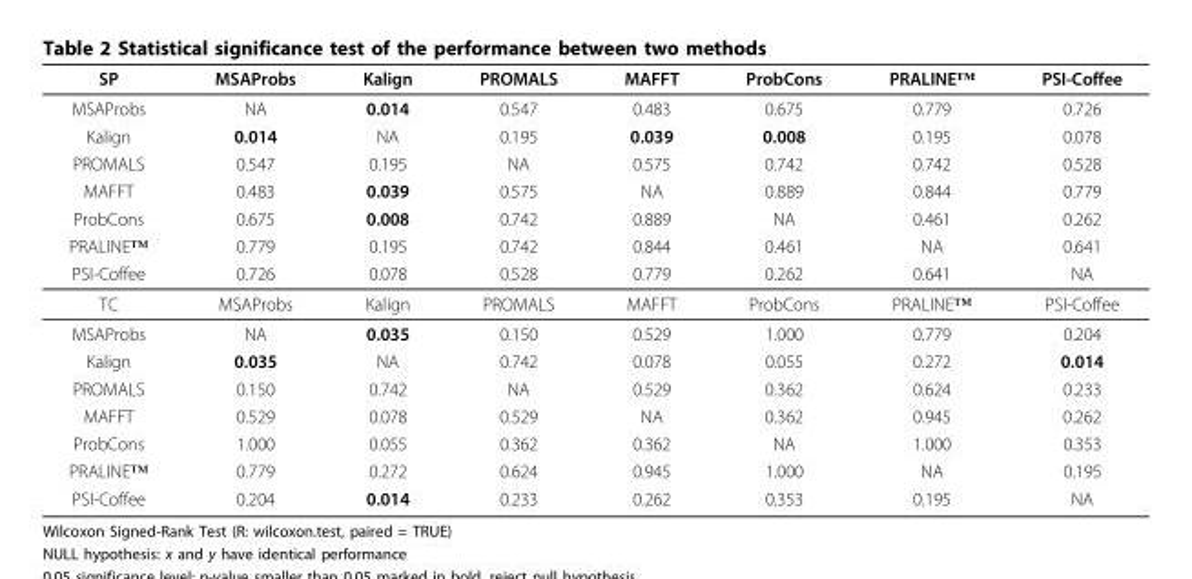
<table><thead><tr><td>SP</td><td>MSAProbs</td><td>Kalign</td><td>PROMALS</td><td>MAFFT</td><td>ProbCons</td><td>PRALINE™</td><td>PSI-Coffee</td></tr></thead><tbody><tr><td>MSAProbs</td><td>NA</td><td>0.014</td><td>0.547</td><td>0.483</td><td>0.675</td><td>0.779</td><td>0.726</td></tr><tr><td>Kalign</td><td>0.014</td><td>NA</td><td>0.195</td><td>0.039</td><td>0.008</td><td>0.195</td><td>0.078</td></tr><tr><td>PROMALS</td><td>0.547</td><td>0.195</td><td>NA</td><td>0.575</td><td>0.742</td><td>0.742</td><td>0.528</td></tr><tr><td>MAFFT</td><td>0.483</td><td>0.039</td><td>0.575</td><td>NA</td><td>0.889</td><td>0.844</td><td>0.779</td></tr><tr><td>ProbCons</td><td>0.675</td><td>0.008</td><td>0.742</td><td>0.889</td><td>NA</td><td>0.461</td><td>0.262</td></tr><tr><td>PRALINE™</td><td>0.779</td><td>0.195</td><td>0.742</td><td>0.844</td><td>0.461</td><td>NA</td><td>0.641</td></tr><tr><td>PSI-Coffee</td><td>0.726</td><td>0.078</td><td>0.528</td><td>0.779</td><td>0.262</td><td>0.641</td><td>NA</td></tr><tr><td>TC</td><td>MSAProbs</td><td>Kalign</td><td>PROMALS</td><td>MAFFT</td><td>ProbCons</td><td>PRALINE™</td><td>PSI-Coffee</td></tr><tr><td>MSAProbs</td><td>NA</td><td>0.035</td><td>0.150</td><td>0.529</td><td>1.000</td><td>0.779</td><td>0.204</td></tr><tr><td>Kalign</td><td>0.035</td><td>NA</td><td>0.742</td><td>0.078</td><td>0.055</td><td>0.272</td><td>0.014</td></tr><tr><td>PROMALS</td><td>0.150</td><td>0.742</td><td>NA</td><td>0.529</td><td>0.362</td><td>0.624</td><td>0.233</td></tr><tr><td>MAFFT</td><td>0.529</td><td>0.078</td><td>0.529</td><td>NA</td><td>0.362</td><td>0.945</td><td>0.262</td></tr><tr><td>ProbCons</td><td>1.000</td><td>0.055</td><td>0.362</td><td>0.362</td><td>NA</td><td>1.000</td><td>0.353</td></tr><tr><td>PRALINE™</td><td>0.779</td><td>0.272</td><td>0.624</td><td>0.945</td><td>1.000</td><td>NA</td><td>0.195</td></tr><tr><td>PSI-Coffee</td><td>0.204</td><td>0.014</td><td>0.233</td><td>0.262</td><td>0.353</td><td>0.195</td><td>NA</td></tr></tbody></table>